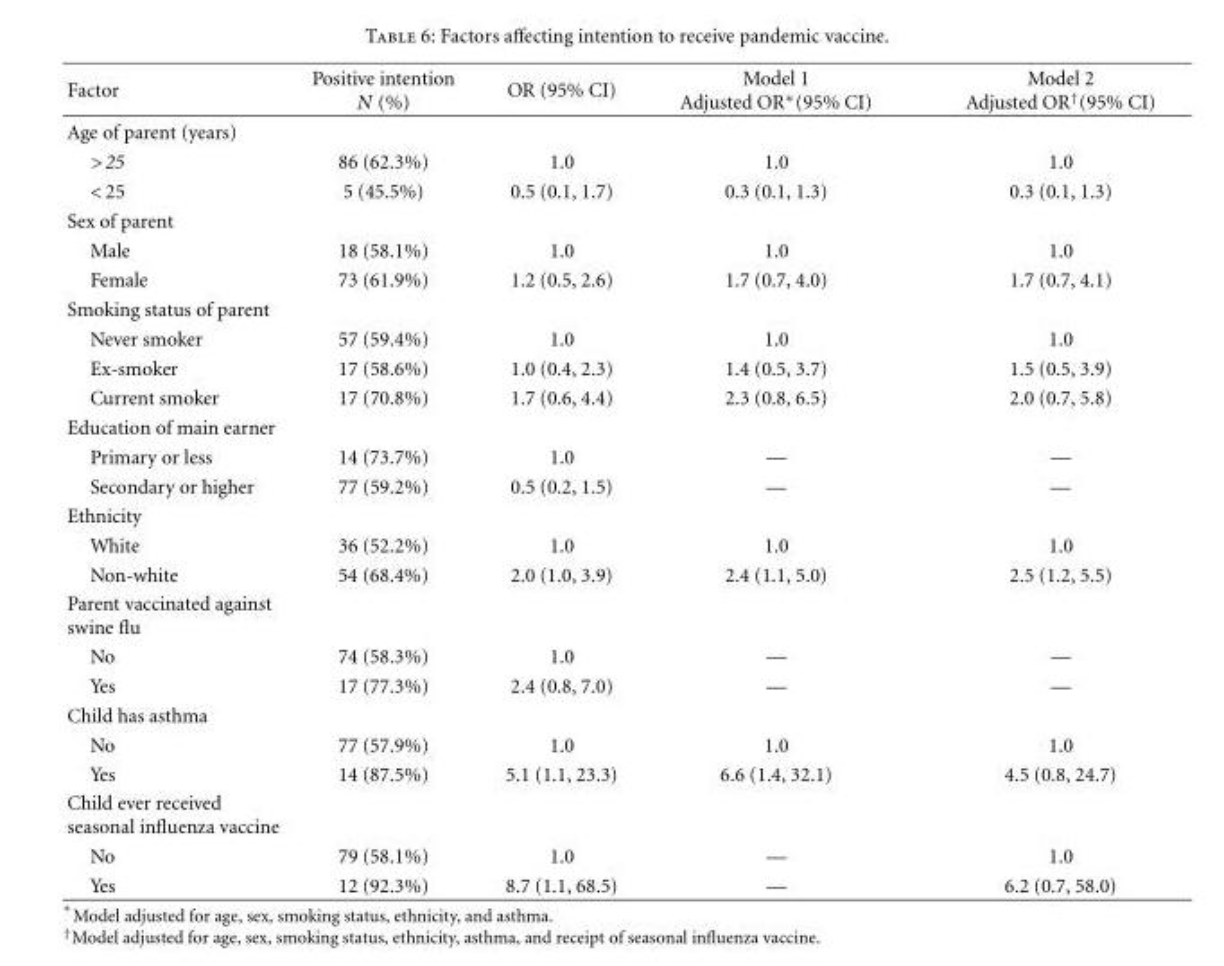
<table><thead><tr><td>Factor</td><td>Positive intention N (%)</td><td>OR (95% CI)</td><td>Model 1 Adjusted OR∗(95% CI)</td><td>Model 2 Adjusted OR<sup>†</sup>(95% CI)</td></tr></thead><tbody><tr><td colspan="5">Age of parent (years)</td></tr><tr><td>&gt; 25</td><td>86 (62.3%)</td><td>1.0</td><td>1.0</td><td>1.0</td></tr><tr><td>&lt; 25</td><td>5 (45.5%)</td><td>0.5 (0.1, 1.7)</td><td>0.3 (0.1, 1.3)</td><td>0.3 (0.1, 1.3)</td></tr><tr><td colspan="5">Sex of parent</td></tr><tr><td>Male</td><td>18 (58.1%)</td><td>1.0</td><td>1.0</td><td>1.0</td></tr><tr><td>Female</td><td>73 (61.9%)</td><td>1.2 (0.5, 2.6)</td><td>1.7 (0.7, 4.0)</td><td>1.7 (0.7, 4.1)</td></tr><tr><td colspan="5">Smoking status of parent</td></tr><tr><td>Never smoker</td><td>57 (59.4%)</td><td>1.0</td><td>1.0</td><td>1.0</td></tr><tr><td>Ex-smoker</td><td>17 (58.6%)</td><td>1.0 (0.4, 2.3)</td><td>1.4 (0.5, 3.7)</td><td>1.5 (0.5, 3.9)</td></tr><tr><td>Current smoker</td><td>17 (70.8%)</td><td>1.7 (0.6, 4.4)</td><td>2.3 (0.8, 6.5)</td><td>2.0 (0.7, 5.8)</td></tr><tr><td colspan="5">Education of main earner</td></tr><tr><td>Primary or less</td><td>14 (73.7%)</td><td>1.0</td><td>—</td><td>—</td></tr><tr><td>Secondary or higher</td><td>77 (59.2%)</td><td>0.5 (0.2, 1.5)</td><td>—</td><td>—</td></tr><tr><td colspan="5">Ethnicity</td></tr><tr><td>White</td><td>36 (52.2%)</td><td>1.0</td><td>1.0</td><td>1.0</td></tr><tr><td>Non-white</td><td>54 (68.4%)</td><td>2.0 (1.0, 3.9)</td><td>2.4 (1.1, 5.0)</td><td>2.5 (1.2, 5.5)</td></tr><tr><td colspan="5">Parent vaccinated against swine flu</td></tr><tr><td>No</td><td>74 (58.3%)</td><td>1.0</td><td>—</td><td>—</td></tr><tr><td>Yes</td><td>17 (77.3%)</td><td>2.4 (0.8, 7.0)</td><td>—</td><td>—</td></tr><tr><td colspan="5">Child has asthma</td></tr><tr><td>No</td><td>77 (57.9%)</td><td>1.0</td><td>1.0</td><td>1.0</td></tr><tr><td>Yes</td><td>14 (87.5%)</td><td>5.1 (1.1, 23.3)</td><td>6.6 (1.4, 32.1)</td><td>4.5 (0.8, 24.7)</td></tr><tr><td colspan="5">Child ever received seasonal influenza vaccine</td></tr><tr><td>No</td><td>79 (58.1%)</td><td>1.0</td><td>—</td><td>1.0</td></tr><tr><td>Yes</td><td>12 (92.3%)</td><td>8.7 (1.1, 68.5)</td><td>—</td><td>6.2 (0.7, 58.0)</td></tr></tbody></table>